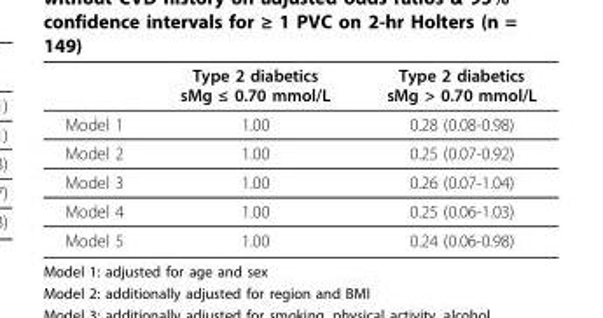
<table><thead><tr><td></td><td>Type 2 diabetics sMg ≤ 0.70 mmol/L</td><td>Type 2 diabetics sMg &gt; 0.70 mmol/L</td></tr></thead><tbody><tr><td>Model 1</td><td>1.00</td><td>0.28 (0.08-0.98)</td></tr><tr><td>Model 2</td><td>1.00</td><td>0.25 (0.07-0.92)</td></tr><tr><td>Model 3</td><td>1.00</td><td>0.26 (0.07-1.04)</td></tr><tr><td>Model 4</td><td>1.00</td><td>0.25 (0.06-1.03)</td></tr><tr><td>Model 5</td><td>1.00</td><td>0.24 (0.06-0.98)</td></tr></tbody></table>